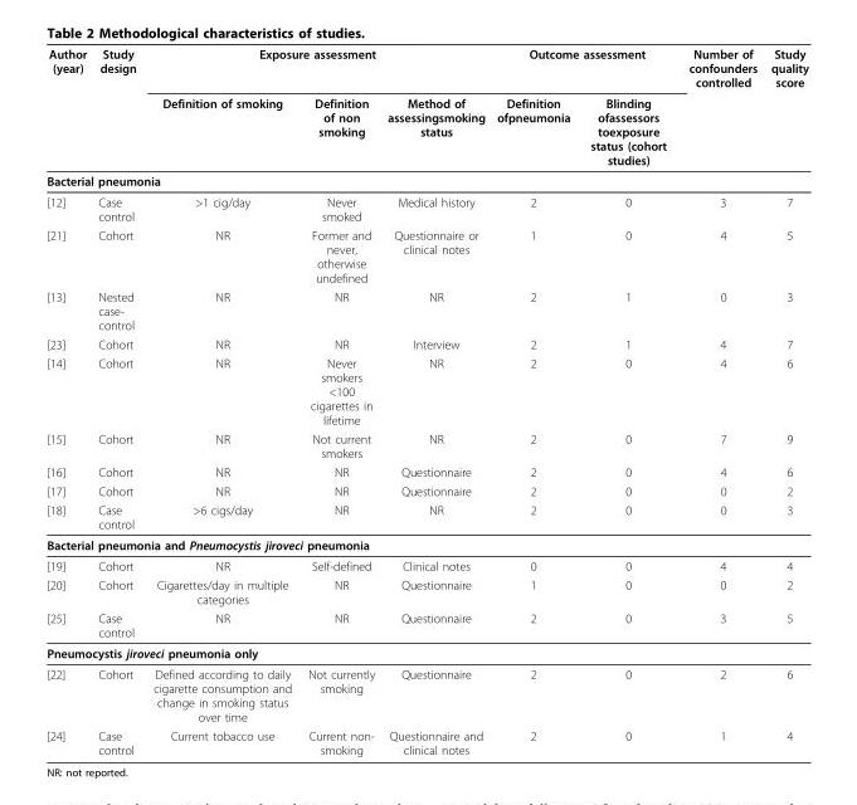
<table><thead><tr><td rowspan="2">Author (year)</td><td rowspan="2">Study design</td><td colspan="3">Exposure assessment</td><td colspan="2">Outcome assessment</td><td rowspan="2">Number of confounders controlled</td><td rowspan="2">Study quality score</td></tr><tr><td>Definition of smoking</td><td>Definition of non smoking</td><td>Method of assessingsmoking status</td><td>Definition ofpneumonia</td><td>Blinding ofassessors toexposure status (cohort studies)</td></tr></thead><tbody><tr><td colspan="9">Bacterial pneumonia</td></tr><tr><td>[12]</td><td>Case control</td><td>&gt;1 cig/day</td><td>Never smoked</td><td>Medical history</td><td>2</td><td>0</td><td>3</td><td>7</td></tr><tr><td>[21]</td><td>Cohort</td><td>NR</td><td>Former and never, otherwise undefined</td><td>Questionnaire or clinical notes</td><td>1</td><td>0</td><td>4</td><td>5</td></tr><tr><td>[13]</td><td>Nested case- control</td><td>NR</td><td>NR</td><td>NR</td><td>2</td><td>1</td><td>0</td><td>3</td></tr><tr><td>[23]</td><td>Cohort</td><td>NR</td><td>NR</td><td>Interview</td><td>2</td><td>1</td><td>4</td><td>7</td></tr><tr><td>[14]</td><td>Cohort</td><td>NR</td><td>Never smokers &lt;100 cigarettes in lifetime</td><td>NR</td><td>2</td><td>0</td><td>4</td><td>6</td></tr><tr><td>[15]</td><td>Cohort</td><td>NR</td><td>Not current smokers</td><td>NR</td><td>2</td><td>0</td><td>7</td><td>9</td></tr><tr><td>[16]</td><td>Cohort</td><td>NR</td><td>NR</td><td>Questionnaire</td><td>2</td><td>0</td><td>4</td><td>6</td></tr><tr><td>[17]</td><td>Cohort</td><td>NR</td><td>NR</td><td>Questionnaire</td><td>2</td><td>0</td><td>0</td><td>2</td></tr><tr><td>[18]</td><td>Case control</td><td>&gt;6 cigs/day</td><td>NR</td><td>NR</td><td>2</td><td>0</td><td>0</td><td>3</td></tr><tr><td colspan="9">Bacterial pneumonia and Pneumocystis jiroveci pneumonia</td></tr><tr><td>[19]</td><td>Cohort</td><td>NR</td><td>Self-defined</td><td>Clinical notes</td><td>0</td><td>0</td><td>4</td><td>4</td></tr><tr><td>[20]</td><td>Cohort</td><td>Cigarettes/day in multiple categories</td><td>NR</td><td>Questionnaire</td><td>1</td><td>0</td><td>0</td><td>2</td></tr><tr><td>[25]</td><td>Case control</td><td>NR</td><td>NR</td><td>Questionnaire</td><td>2</td><td>0</td><td>3</td><td>5</td></tr><tr><td colspan="9">Pneumocystis jiroveci pneumonia only</td></tr><tr><td>[22]</td><td>Cohort</td><td>Defined according to daily cigarette consumption and change in smoking status over time</td><td>Not currently smoking</td><td>Questionnaire</td><td>2</td><td>0</td><td>2</td><td>6</td></tr><tr><td>[24]</td><td>Case control</td><td>Current tobacco use</td><td>Current non- smoking</td><td>Questionnaire and clinical notes</td><td>2</td><td>0</td><td>1</td><td>4</td></tr></tbody></table>